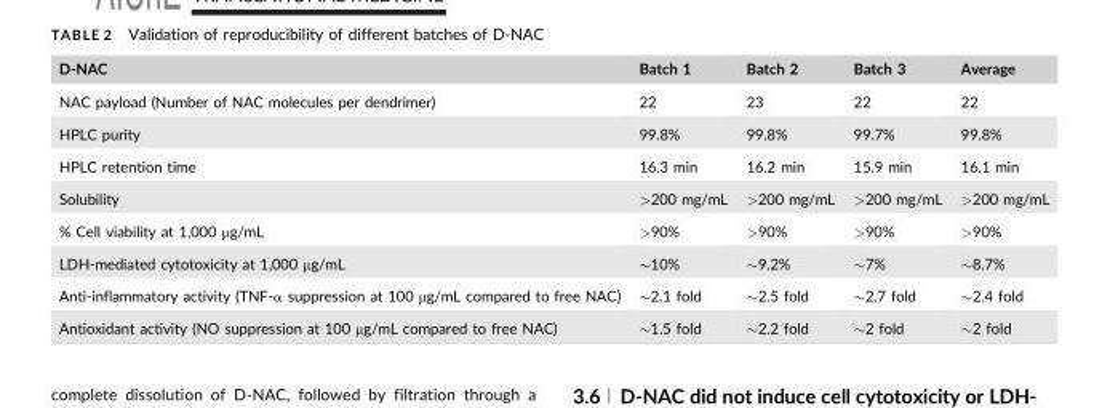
<table><thead><tr><td>D-NAC</td><td>Batch 1</td><td>Batch 2</td><td>Batch 3</td><td>Average</td></tr></thead><tbody><tr><td>NAC payload (Number of NAC molecules per dendrimer)</td><td>22</td><td>23</td><td>22</td><td>22</td></tr><tr><td>HPLC purity</td><td>99.8%</td><td>99.8%</td><td>99.7%</td><td>99.8%</td></tr><tr><td>HPLC retention time</td><td>16.3 min</td><td>16.2 min</td><td>15.9 min</td><td>16.1 min</td></tr><tr><td>Solubility</td><td>&gt;200 mg/mL</td><td>&gt;200 mg/mL</td><td>&gt;200 mg/mL</td><td>&gt;200 mg/mL</td></tr><tr><td>% Cell viability at 1,000 µg/mL</td><td>&gt;90%</td><td>&gt;90%</td><td>&gt;90%</td><td>&gt;90%</td></tr><tr><td>LDH-mediated cytotoxicity at 1,000 µg/mL</td><td>∼10%</td><td>∼9.2%</td><td>∼7%</td><td>∼8.7%</td></tr><tr><td>Anti-inflammatory activity (TNF-α suppression at 100 µg/mL compared to free NAC)</td><td>∼2.1 fold</td><td>∼2.5 fold</td><td>∼2.7 fold</td><td>∼2.4 fold</td></tr><tr><td>Antioxidant activity (NO suppression at 100 µg/mL compared to free NAC)</td><td>∼1.5 fold</td><td>∼2.2 fold</td><td>∼2 fold</td><td>∼2 fold</td></tr></tbody></table>